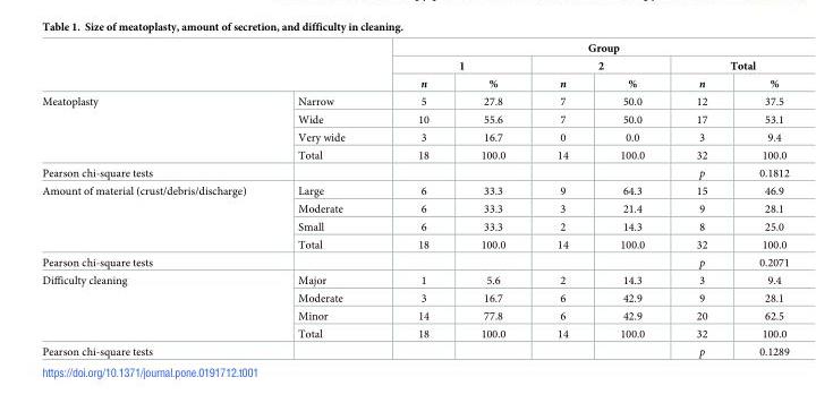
<table><thead><tr><td rowspan="3"></td><td rowspan="3"></td><td colspan="6">Group</td></tr><tr><td colspan="2">1</td><td colspan="2">2</td><td colspan="2">Total</td></tr><tr><td>n</td><td>%</td><td>n</td><td>%</td><td>n</td><td>%</td></tr></thead><tbody><tr><td rowspan="4">Meatoplasty</td><td>Narrow</td><td>5</td><td>27.8</td><td>7</td><td>50.0</td><td>12</td><td>37.5</td></tr><tr><td>Wide</td><td>10</td><td>55.6</td><td>7</td><td>50.0</td><td>17</td><td>53.1</td></tr><tr><td>Very wide</td><td>3</td><td>16.7</td><td>0</td><td>0.0</td><td>3</td><td>9.4</td></tr><tr><td>Total</td><td>18</td><td>100.0</td><td>14</td><td>100.0</td><td>32</td><td>100.0</td></tr><tr><td>Pearson chi-square tests</td><td></td><td></td><td></td><td></td><td></td><td>p</td><td>0.1812</td></tr><tr><td rowspan="4">Amount of material (crust/debris/discharge)</td><td>Large</td><td>6</td><td>33.3</td><td>9</td><td>64.3</td><td>15</td><td>46.9</td></tr><tr><td>Moderate</td><td>6</td><td>33.3</td><td>3</td><td>21.4</td><td>9</td><td>28.1</td></tr><tr><td>Small</td><td>6</td><td>33.3</td><td>2</td><td>14.3</td><td>8</td><td>25.0</td></tr><tr><td>Total</td><td>18</td><td>100.0</td><td>14</td><td>100.0</td><td>32</td><td>100.0</td></tr><tr><td>Pearson chi-square tests</td><td></td><td></td><td></td><td></td><td></td><td>p</td><td>0.2071</td></tr><tr><td rowspan="4">Difficulty cleaning</td><td>Major</td><td>1</td><td>5.6</td><td>2</td><td>14.3</td><td>3</td><td>9.4</td></tr><tr><td>Moderate</td><td>3</td><td>16.7</td><td>6</td><td>42.9</td><td>9</td><td>28.1</td></tr><tr><td>Minor</td><td>14</td><td>77.8</td><td>6</td><td>42.9</td><td>20</td><td>62.5</td></tr><tr><td>Total</td><td>18</td><td>100.0</td><td>14</td><td>100.0</td><td>32</td><td>100.0</td></tr><tr><td>Pearson chi-square tests</td><td></td><td></td><td></td><td></td><td></td><td>p</td><td>0.1289</td></tr></tbody></table>